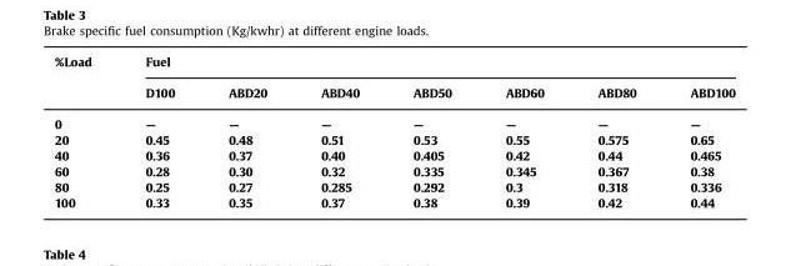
<table><thead><tr><td rowspan="2">%Load</td><td colspan="7">Fuel</td></tr><tr><td>D100</td><td>ABD20</td><td>ABD40</td><td>ABD50</td><td>ABD60</td><td>ABD80</td><td>ABD100</td></tr></thead><tbody><tr><td>0</td><td>—</td><td>—</td><td>—</td><td>—</td><td>—</td><td>—</td><td>—</td></tr><tr><td>20</td><td>0.45</td><td>0.48</td><td>0.51</td><td>0.53</td><td>0.55</td><td>0.575</td><td>0.65</td></tr><tr><td>40</td><td>0.36</td><td>0.37</td><td>0.40</td><td>0.405</td><td>0.42</td><td>0.44</td><td>0.465</td></tr><tr><td>60</td><td>0.28</td><td>0.30</td><td>0.32</td><td>0.335</td><td>0.345</td><td>0.367</td><td>0.38</td></tr><tr><td>80</td><td>0.25</td><td>0.27</td><td>0.285</td><td>0.292</td><td>0.3</td><td>0.318</td><td>0.336</td></tr><tr><td>100</td><td>0.33</td><td>0.35</td><td>0.37</td><td>0.38</td><td>0.39</td><td>0.42</td><td>0.44</td></tr></tbody></table>